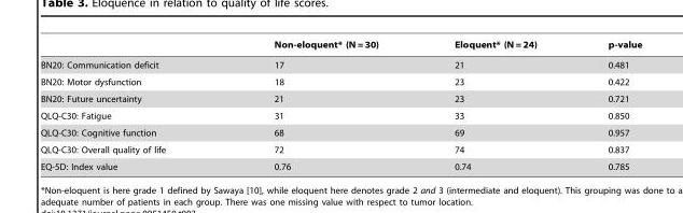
<table><thead><tr><td></td><td>Non-eloquent* (N = 30)</td><td>Eloquent* (N = 24)</td><td>p-value</td></tr></thead><tbody><tr><td>BN20: Communication deficit</td><td>17</td><td>21</td><td>0.481</td></tr><tr><td>BN20: Motor dysfunction</td><td>18</td><td>23</td><td>0.422</td></tr><tr><td>BN20: Future uncertainty</td><td>21</td><td>23</td><td>0.721</td></tr><tr><td>QLQ-C30: Fatigue</td><td>31</td><td>33</td><td>0.850</td></tr><tr><td>QLQ-C30: Cognitive function</td><td>68</td><td>69</td><td>0.957</td></tr><tr><td>QLQ-C30: Overall quality of life</td><td>72</td><td>74</td><td>0.837</td></tr><tr><td>EQ-5D: Index value</td><td>0.76</td><td>0.74</td><td>0.785</td></tr></tbody></table>